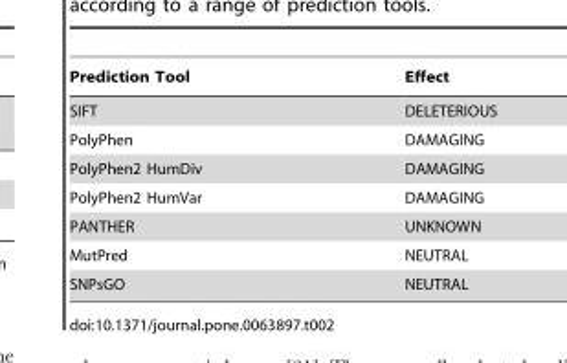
<table><thead><tr><td>Prediction Tool</td><td>Effect</td></tr></thead><tbody><tr><td>SIFT</td><td>DELETERIOUS</td></tr><tr><td>PolyPhen</td><td>DAMAGING</td></tr><tr><td>PolyPhen2 HumDiv</td><td>DAMAGING</td></tr><tr><td>PolyPhen2 HumVar</td><td>DAMAGING</td></tr><tr><td>PANTHER</td><td>UNKNOWN</td></tr><tr><td>MutPred</td><td>NEUTRAL</td></tr><tr><td>SNPsGO</td><td>NEUTRAL</td></tr></tbody></table>